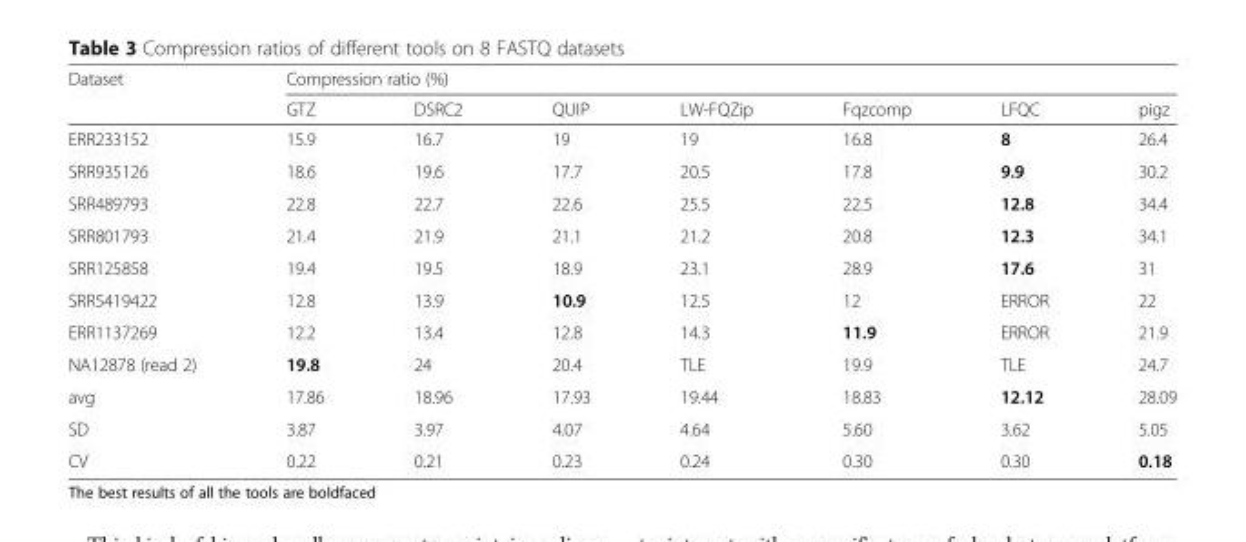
<table><thead><tr><td rowspan="2">Dataset</td><td colspan="7">Compression ratio (%)</td></tr><tr><td>GTZ</td><td>DSRC2</td><td>QUIP</td><td>LW-FQZip</td><td>Fqzcomp</td><td>LFQC</td><td>pigz</td></tr></thead><tbody><tr><td>ERR233152</td><td>15.9</td><td>16.7</td><td>19</td><td>19</td><td>16.8</td><td>8</td><td>26.4</td></tr><tr><td>SRR935126</td><td>18.6</td><td>19.6</td><td>17.7</td><td>20.5</td><td>17.8</td><td>9.9</td><td>30.2</td></tr><tr><td>SRR489793</td><td>22.8</td><td>22.7</td><td>22.6</td><td>25.5</td><td>22.5</td><td>12.8</td><td>34.4</td></tr><tr><td>SRR801793</td><td>21.4</td><td>21.9</td><td>21.1</td><td>21.2</td><td>20.8</td><td>12.3</td><td>34.1</td></tr><tr><td>SRR125858</td><td>19.4</td><td>19.5</td><td>18.9</td><td>23.1</td><td>28.9</td><td>17.6</td><td>31</td></tr><tr><td>SRR5419422</td><td>12.8</td><td>13.9</td><td>10.9</td><td>12.5</td><td>12</td><td>ERROR</td><td>22</td></tr><tr><td>ERR1137269</td><td>12.2</td><td>13.4</td><td>12.8</td><td>14.3</td><td>11.9</td><td>ERROR</td><td>21.9</td></tr><tr><td>NA12878 (read 2)</td><td>19.8</td><td>24</td><td>20.4</td><td>TLE</td><td>19.9</td><td>TLE</td><td>24.7</td></tr><tr><td>avg</td><td>17.86</td><td>18.96</td><td>17.93</td><td>19.44</td><td>18.83</td><td>12.12</td><td>28.09</td></tr><tr><td>SD</td><td>3.87</td><td>3.97</td><td>4.07</td><td>4.64</td><td>5.60</td><td>3.62</td><td>5.05</td></tr><tr><td>CV</td><td>0.22</td><td>0.21</td><td>0.23</td><td>0.24</td><td>0.30</td><td>0.30</td><td>0.18</td></tr></tbody></table>